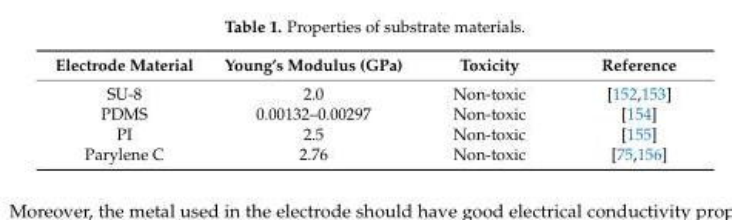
<table><thead><tr><td>Electrode Material</td><td>Young’s Modulus (GPa)</td><td>Toxicity</td><td>Reference</td></tr></thead><tbody><tr><td>SU-8</td><td>2.0</td><td>Non-toxic</td><td>[152,153]</td></tr><tr><td>PDMS</td><td>0.00132–0.00297</td><td>Non-toxic</td><td>[154]</td></tr><tr><td>PI</td><td>2.5</td><td>Non-toxic</td><td>[155]</td></tr><tr><td>Parylene C</td><td>2.76</td><td>Non-toxic</td><td>[75,156]</td></tr></tbody></table>